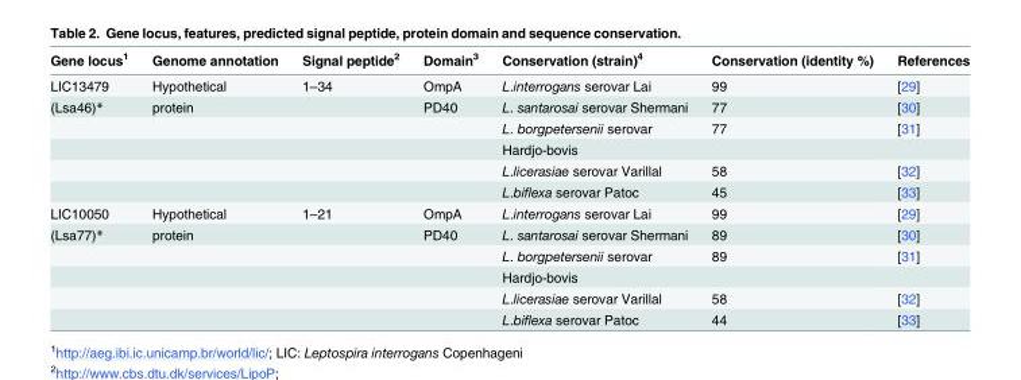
<table><thead><tr><td>Gene locus<sup>1</sup></td><td>Genome annotation</td><td>Signal peptide<sup>2</sup></td><td>Domain<sup>3</sup></td><td>Conservation (strain)<sup>4</sup></td><td>Conservation (identity %)</td><td>References</td></tr></thead><tbody><tr><td>LIC13479</td><td>Hypothetical</td><td>1–34</td><td>OmpA</td><td>L.interrogans serovar Lai</td><td>99</td><td>[29]</td></tr><tr><td rowspan="5">(Lsa46)*</td><td>protein</td><td></td><td>PD40</td><td>L. santarosai serovar Shermani</td><td>77</td><td>[30]</td></tr><tr><td></td><td></td><td></td><td>L. borgpetersenii serovar</td><td>77</td><td>[31]</td></tr><tr><td></td><td></td><td></td><td>Hardjo-bovis</td><td></td><td></td></tr><tr><td></td><td></td><td></td><td>L.licerasiae serovar Varillal</td><td>58</td><td>[32]</td></tr><tr><td></td><td></td><td></td><td>L.biflexa serovar Patoc</td><td>45</td><td>[33]</td></tr><tr><td>LIC10050</td><td>Hypothetical</td><td>1–21</td><td>OmpA</td><td>L.interrogans serovar Lai</td><td>99</td><td>[29]</td></tr><tr><td rowspan="5">(Lsa77)*</td><td>protein</td><td></td><td>PD40</td><td>L. santarosai serovar Shermani</td><td>89</td><td>[30]</td></tr><tr><td></td><td></td><td></td><td>L. borgpetersenii serovar</td><td>89</td><td>[31]</td></tr><tr><td></td><td></td><td></td><td>Hardjo-bovis</td><td></td><td></td></tr><tr><td></td><td></td><td></td><td>L.licerasiae serovar Varillal</td><td>58</td><td>[32]</td></tr><tr><td></td><td></td><td></td><td>L.biflexa serovar Patoc</td><td>44</td><td>[33]</td></tr></tbody></table>